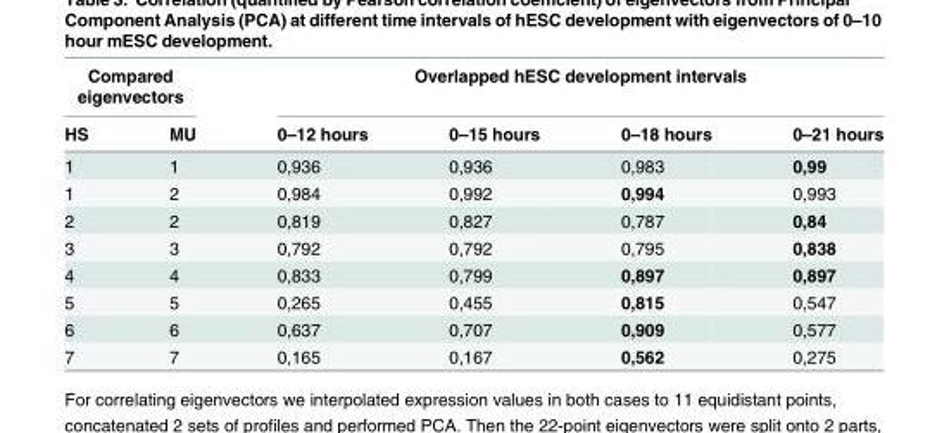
<table><thead><tr><td colspan="2">Compared eigenvectors</td><td colspan="4">Overlapped hESC development intervals</td></tr><tr><td>HS</td><td>MU</td><td>0–12 hours</td><td>0–15 hours</td><td>0–18 hours</td><td>0–21 hours</td></tr></thead><tbody><tr><td>1</td><td>1</td><td>0,936</td><td>0,936</td><td>0,983</td><td>0,99</td></tr><tr><td>1</td><td>2</td><td>0,984</td><td>0,992</td><td>0,994</td><td>0,993</td></tr><tr><td>2</td><td>2</td><td>0,819</td><td>0,827</td><td>0,787</td><td>0,84</td></tr><tr><td>3</td><td>3</td><td>0,792</td><td>0,792</td><td>0,795</td><td>0,838</td></tr><tr><td>4</td><td>4</td><td>0,833</td><td>0,799</td><td>0,897</td><td>0,897</td></tr><tr><td>5</td><td>5</td><td>0,265</td><td>0,455</td><td>0,815</td><td>0,547</td></tr><tr><td>6</td><td>6</td><td>0,637</td><td>0,707</td><td>0,909</td><td>0,577</td></tr><tr><td>7</td><td>7</td><td>0,165</td><td>0,167</td><td>0,562</td><td>0,275</td></tr></tbody></table>